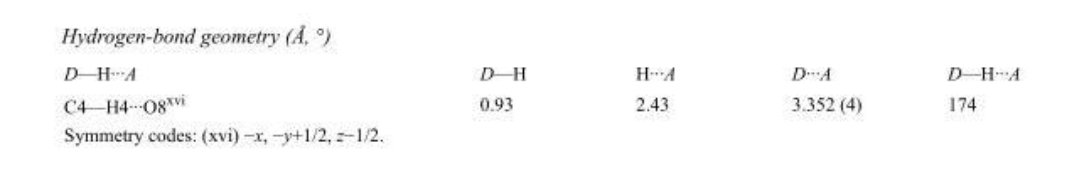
<table><tbody><tr><td>D—H···A</td><td>D—H</td><td>H···A</td><td>D···A</td><td>D—H···A</td></tr><tr><td>C4—H4···O8<sup>xvi</sup></td><td>0.93</td><td>2.43</td><td>3.352 (4)</td><td>174</td></tr></tbody></table>